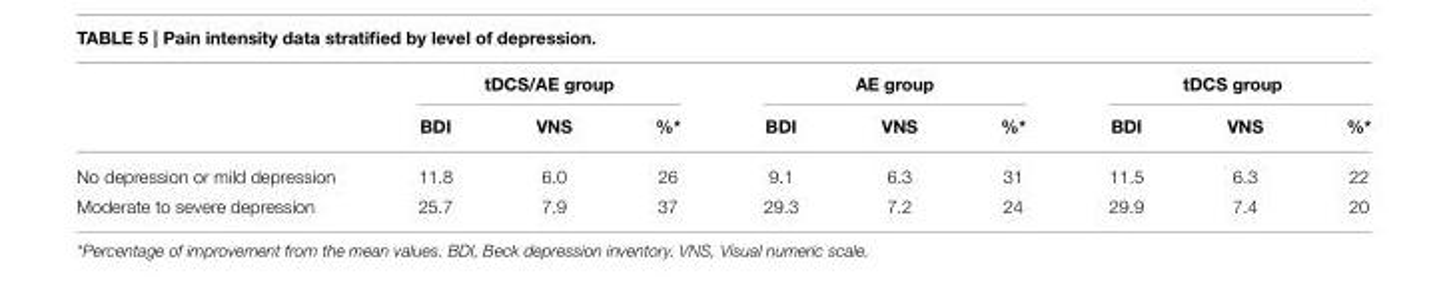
<table><thead><tr><td rowspan="2"></td><td colspan="3">tDCS/AE group</td><td colspan="3">AE group</td><td colspan="3">tDCS group</td></tr><tr><td>BDI</td><td>VNS</td><td>%*</td><td>BDI</td><td>VNS</td><td>%*</td><td>BDI</td><td>VNS</td><td>%*</td></tr></thead><tbody><tr><td>No depression or mild depression</td><td>11.8</td><td>6.0</td><td>26</td><td>9.1</td><td>6.3</td><td>31</td><td>11.5</td><td>6.3</td><td>22</td></tr><tr><td>Moderate to severe depression</td><td>25.7</td><td>7.9</td><td>37</td><td>29.3</td><td>7.2</td><td>24</td><td>29.9</td><td>7.4</td><td>20</td></tr></tbody></table>